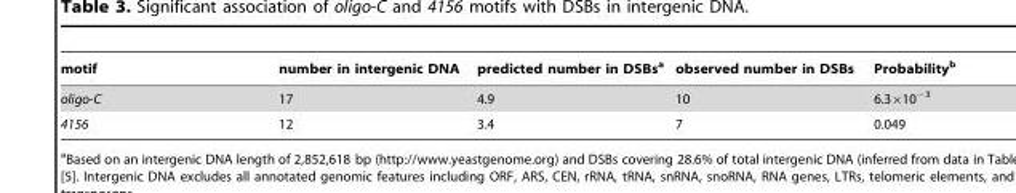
<table><thead><tr><td>motif</td><td>number in intergenic DNA</td><td>predicted number in DSBs<sup>a</sup></td><td>observed number in DSBs</td><td>Probability<sup>b</sup></td></tr></thead><tbody><tr><td>oligo-C</td><td>17</td><td>4.9</td><td>10</td><td>6.3×10<sup>−3</sup></td></tr><tr><td>4156</td><td>12</td><td>3.4</td><td>7</td><td>0.049</td></tr></tbody></table>